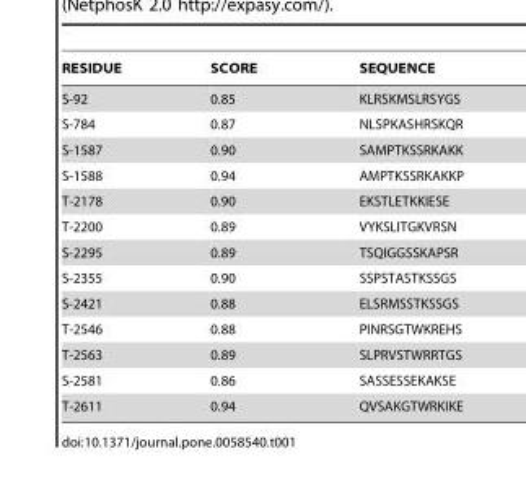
<table><thead><tr><td>RESIDUE</td><td>SCORE</td><td>SEQUENCE</td></tr></thead><tbody><tr><td>S-92</td><td>0.85</td><td>KLRSKMSLRSYGS</td></tr><tr><td>S-784</td><td>0.87</td><td>NLSPKASHRSKQR</td></tr><tr><td>S-1587</td><td>0.90</td><td>SAMPTKSSRKAKK</td></tr><tr><td>S-1588</td><td>0.94</td><td>AMPTKSSRKAKKP</td></tr><tr><td>T-2178</td><td>0.90</td><td>EKSTLETKKIESE</td></tr><tr><td>T-2200</td><td>0.89</td><td>VYKSLITGKVRSN</td></tr><tr><td>S-2295</td><td>0.89</td><td>TSQIGGSSKAPSR</td></tr><tr><td>S-2355</td><td>0.90</td><td>SSPSTASTKSSGS</td></tr><tr><td>S-2421</td><td>0.88</td><td>ELSRMSSTKSSGS</td></tr><tr><td>T-2546</td><td>0.88</td><td>PINRSGTWKREHS</td></tr><tr><td>T-2563</td><td>0.89</td><td>SLPRVSTWRRTGS</td></tr><tr><td>S-2581</td><td>0.86</td><td>SASSESSEKAKSE</td></tr><tr><td>T-2611</td><td>0.94</td><td>QVSAKGTWRKIKE</td></tr></tbody></table>